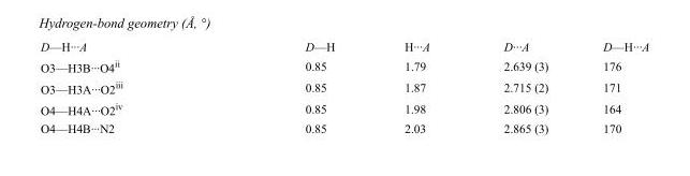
<table><tbody><tr><td>D—H···A</td><td>D—H</td><td>H···A</td><td>D···A</td><td>D—H···A</td></tr><tr><td>O3—H3B···O4<sup>ii</sup></td><td>0.85</td><td>1.79</td><td>2.639 (3)</td><td>176</td></tr><tr><td>O3—H3A···O2<sup>iii</sup></td><td>0.85</td><td>1.87</td><td>2.715 (2)</td><td>171</td></tr><tr><td>O4—H4A···O2<sup>iv</sup></td><td>0.85</td><td>1.98</td><td>2.806 (3)</td><td>164</td></tr><tr><td>O4—H4B···N2</td><td>0.85</td><td>2.03</td><td>2.865 (3)</td><td>170</td></tr></tbody></table>